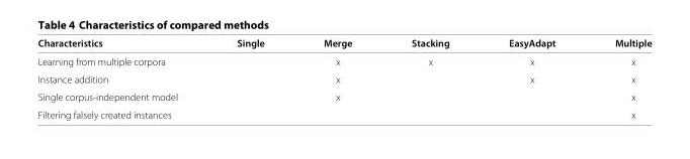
<table><thead><tr><td>Characteristics</td><td>Single</td><td>Merge</td><td>Stacking</td><td>EasyAdapt</td><td>Multiple</td></tr></thead><tbody><tr><td>Learning from multiple corpora</td><td></td><td>x</td><td>x</td><td>x</td><td>x</td></tr><tr><td>Instance addition</td><td></td><td>x</td><td></td><td>x</td><td>x</td></tr><tr><td>Single corpus-independent model</td><td></td><td>x</td><td></td><td></td><td>x</td></tr><tr><td>Filtering falsely created instances</td><td></td><td></td><td></td><td></td><td>x</td></tr></tbody></table>